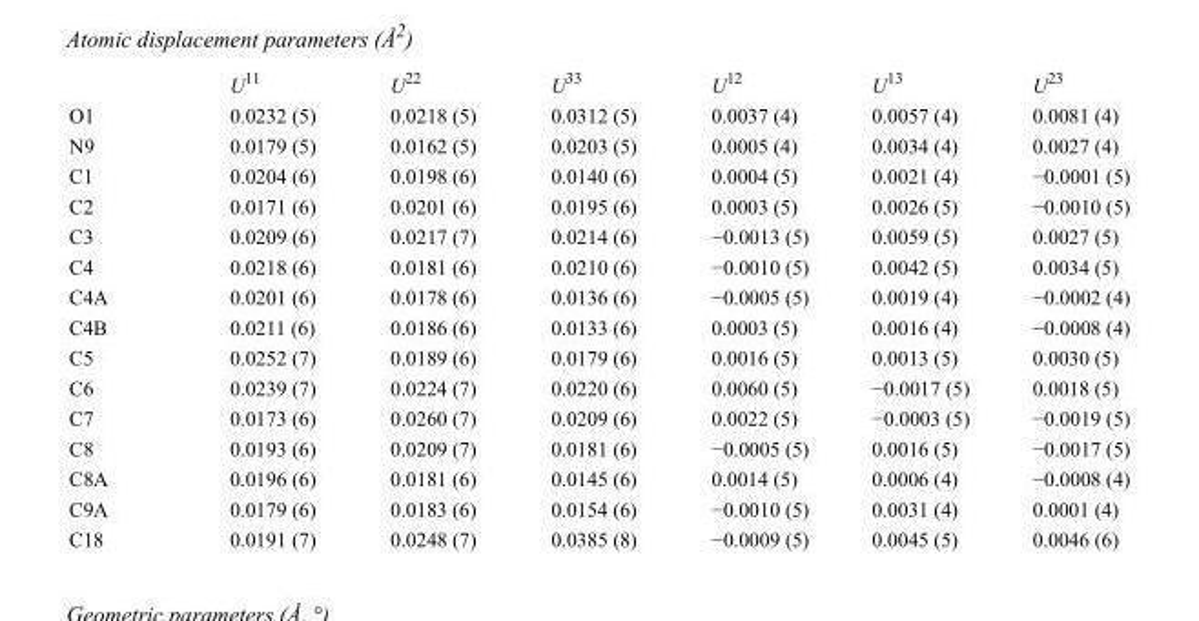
<table><thead><tr><td></td><td>U<sup>11</sup></td><td>U<sup>22</sup></td><td>U<sup>33</sup></td><td>U<sup>12</sup></td><td>U<sup>13</sup></td><td>U<sup>23</sup></td></tr></thead><tbody><tr><td>O1</td><td>0.0232 (5)</td><td>0.0218 (5)</td><td>0.0312 (5)</td><td>0.0037 (4)</td><td>0.0057 (4)</td><td>0.0081 (4)</td></tr><tr><td>N9</td><td>0.0179 (5)</td><td>0.0162 (5)</td><td>0.0203 (5)</td><td>0.0005 (4)</td><td>0.0034 (4)</td><td>0.0027 (4)</td></tr><tr><td>C1</td><td>0.0204 (6)</td><td>0.0198 (6)</td><td>0.0140 (6)</td><td>0.0004 (5)</td><td>0.0021 (4)</td><td>−0.0001 (5)</td></tr><tr><td>C2</td><td>0.0171 (6)</td><td>0.0201 (6)</td><td>0.0195 (6)</td><td>0.0003 (5)</td><td>0.0026 (5)</td><td>−0.0010 (5)</td></tr><tr><td>C3</td><td>0.0209 (6)</td><td>0.0217 (7)</td><td>0.0214 (6)</td><td>−0.0013 (5)</td><td>0.0059 (5)</td><td>0.0027 (5)</td></tr><tr><td>C4</td><td>0.0218 (6)</td><td>0.0181 (6)</td><td>0.0210 (6)</td><td>−0.0010 (5)</td><td>0.0042 (5)</td><td>0.0034 (5)</td></tr><tr><td>C4A</td><td>0.0201 (6)</td><td>0.0178 (6)</td><td>0.0136 (6)</td><td>−0.0005 (5)</td><td>0.0019 (4)</td><td>−0.0002 (4)</td></tr><tr><td>C4B</td><td>0.0211 (6)</td><td>0.0186 (6)</td><td>0.0133 (6)</td><td>0.0003 (5)</td><td>0.0016 (4)</td><td>−0.0008 (4)</td></tr><tr><td>C5</td><td>0.0252 (7)</td><td>0.0189 (6)</td><td>0.0179 (6)</td><td>0.0016 (5)</td><td>0.0013 (5)</td><td>0.0030 (5)</td></tr><tr><td>C6</td><td>0.0239 (7)</td><td>0.0224 (7)</td><td>0.0220 (6)</td><td>0.0060 (5)</td><td>−0.0017 (5)</td><td>0.0018 (5)</td></tr><tr><td>C7</td><td>0.0173 (6)</td><td>0.0260 (7)</td><td>0.0209 (6)</td><td>0.0022 (5)</td><td>−0.0003 (5)</td><td>−0.0019 (5)</td></tr><tr><td>C8</td><td>0.0193 (6)</td><td>0.0209 (7)</td><td>0.0181 (6)</td><td>−0.0005 (5)</td><td>0.0016 (5)</td><td>−0.0017 (5)</td></tr><tr><td>C8A</td><td>0.0196 (6)</td><td>0.0181 (6)</td><td>0.0145 (6)</td><td>0.0014 (5)</td><td>0.0006 (4)</td><td>−0.0008 (4)</td></tr><tr><td>C9A</td><td>0.0179 (6)</td><td>0.0183 (6)</td><td>0.0154 (6)</td><td>−0.0010 (5)</td><td>0.0031 (4)</td><td>0.0001 (4)</td></tr><tr><td>C18</td><td>0.0191 (7)</td><td>0.0248 (7)</td><td>0.0385 (8)</td><td>−0.0009 (5)</td><td>0.0045 (5)</td><td>0.0046 (6)</td></tr></tbody></table>